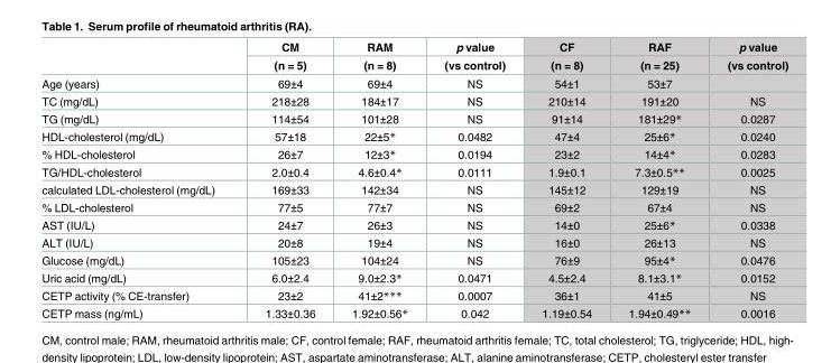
<table><thead><tr><td rowspan="2"></td><td rowspan="2">CM (n = 5)</td><td rowspan="2">RAM (n = 8)</td><td rowspan="2">p value (vs control)</td><td rowspan="2">CF (n = 8)</td><td rowspan="2">RAF (n = 25)</td><td rowspan="2">p value (vs control)</td></tr><tr></tr></thead><tbody><tr><td>Age (years)</td><td>69±4</td><td>69±4</td><td>NS</td><td>54±1</td><td>53±7</td><td></td></tr><tr><td>TC (mg/dL)</td><td>218±28</td><td>184±17</td><td>NS</td><td>210±14</td><td>191±20</td><td>NS</td></tr><tr><td>TG (mg/dL)</td><td>114±54</td><td>101±28</td><td>NS</td><td>91±14</td><td>181±29*</td><td>0.0287</td></tr><tr><td>HDL-cholesterol (mg/dL)</td><td>57±18</td><td>22±5*</td><td>0.0482</td><td>47±4</td><td>25±6*</td><td>0.0240</td></tr><tr><td>% HDL-cholesterol</td><td>26±7</td><td>12±3*</td><td>0.0194</td><td>23±2</td><td>14±4*</td><td>0.0283</td></tr><tr><td>TG/HDL-cholesterol</td><td>2.0±0.4</td><td>4.6±0.4*</td><td>0.0111</td><td>1.9±0.1</td><td>7.3±0.5**</td><td>0.0025</td></tr><tr><td>calculated LDL-cholesterol (mg/dL)</td><td>169±33</td><td>142±34</td><td>NS</td><td>145±12</td><td>129±19</td><td>NS</td></tr><tr><td>% LDL-cholesterol</td><td>77±5</td><td>77±7</td><td>NS</td><td>69±2</td><td>67±4</td><td>NS</td></tr><tr><td>AST (IU/L)</td><td>24±7</td><td>26±3</td><td>NS</td><td>14±0</td><td>25±6*</td><td>0.0338</td></tr><tr><td>ALT (IU/L)</td><td>20±8</td><td>19±4</td><td>NS</td><td>16±0</td><td>26±13</td><td>NS</td></tr><tr><td>Glucose (mg/dL)</td><td>105±23</td><td>104±24</td><td>NS</td><td>76±9</td><td>95±4*</td><td>0.0476</td></tr><tr><td>Uric acid (mg/dL)</td><td>6.0±2.4</td><td>9.0±2.3*</td><td>0.0471</td><td>4.5±2.4</td><td>8.1±3.1*</td><td>0.0152</td></tr><tr><td>CETP activity (% CE-transfer)</td><td>23±2</td><td>41±2***</td><td>0.0007</td><td>36±1</td><td>41±5</td><td>NS</td></tr><tr><td>CETP mass (ng/mL)</td><td>1.33±0.36</td><td>1.92±0.56*</td><td>0.042</td><td>1.19±0.54</td><td>1.94±0.49**</td><td>0.0016</td></tr></tbody></table>